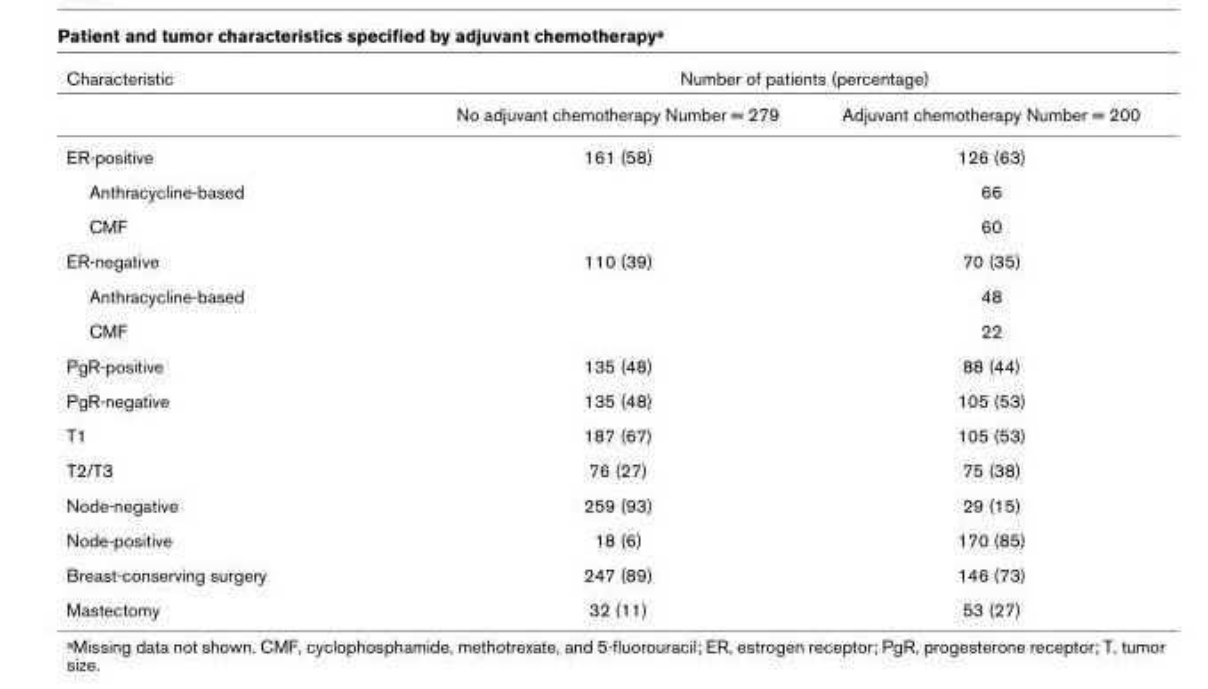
<table><thead><tr><td rowspan="2">Characteristic</td><td colspan="2">Number of patients (percentage)</td></tr><tr><td>No adjuvant chemotherapy Number = 279</td><td>Adjuvant chemotherapy Number = 200</td></tr></thead><tbody><tr><td>ER-positive</td><td>161 (58)</td><td>126 (63)</td></tr><tr><td>Anthracycline-based</td><td></td><td>66</td></tr><tr><td>CMF</td><td></td><td>60</td></tr><tr><td>ER-negative</td><td>110 (39)</td><td>70 (35)</td></tr><tr><td>Anthracycline-based</td><td></td><td>48</td></tr><tr><td>CMF</td><td></td><td>22</td></tr><tr><td>PgR-positive</td><td>135 (48)</td><td>88 (44)</td></tr><tr><td>PgR-negative</td><td>135 (48)</td><td>105 (53)</td></tr><tr><td>T1</td><td>187 (67)</td><td>105 (53)</td></tr><tr><td>T2/T3</td><td>76 (27)</td><td>75 (38)</td></tr><tr><td>Node-negative</td><td>259 (93)</td><td>29 (15)</td></tr><tr><td>Node-positive</td><td>18 (6)</td><td>170 (85)</td></tr><tr><td>Breast-conserving surgery</td><td>247 (89)</td><td>146 (73)</td></tr><tr><td>Mastectomy</td><td>32 (11)</td><td>53 (27)</td></tr></tbody></table>